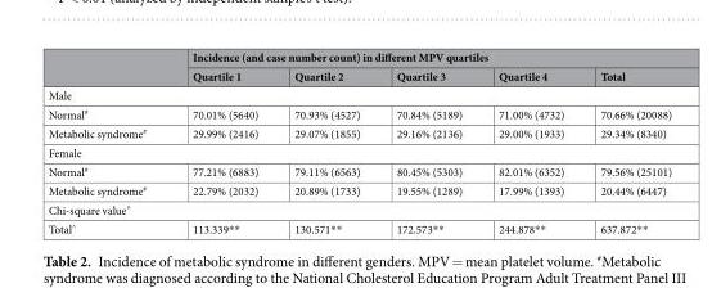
<table><thead><tr><td rowspan="2"></td><td colspan="5">Incidence (and case number count) in different MPV quartiles</td></tr><tr><td>Quartile 1</td><td>Quartile 2</td><td>Quartile 3</td><td>Quartile 4</td><td>Total</td></tr></thead><tbody><tr><td colspan="6">Male</td></tr><tr><td>Normal<sup>#</sup></td><td>70.01% (5640)</td><td>70.93% (4527)</td><td>70.84% (5189)</td><td>71.00% (4732)</td><td>70.66% (20088)</td></tr><tr><td>Metabolic syndrome<sup>#</sup></td><td>29.99% (2416)</td><td>29.07% (1855)</td><td>29.16% (2136)</td><td>29.00% (1933)</td><td>29.34% (8340)</td></tr><tr><td colspan="6">Female</td></tr><tr><td>Normal<sup>#</sup></td><td>77.21% (6883)</td><td>79.11% (6563)</td><td>80.45% (5303)</td><td>82.01% (6352)</td><td>79.56% (25101)</td></tr><tr><td>Metabolic syndrome<sup>#</sup></td><td>22.79% (2032)</td><td>20.89% (1733)</td><td>19.55% (1289)</td><td>17.99% (1393)</td><td>20.44% (6447)</td></tr><tr><td colspan="6">Chi-square value<sup>^</sup></td></tr><tr><td>Total<sup>^</sup></td><td>113.339**</td><td>130.571**</td><td>172.573**</td><td>244.878**</td><td>637.872**</td></tr></tbody></table>